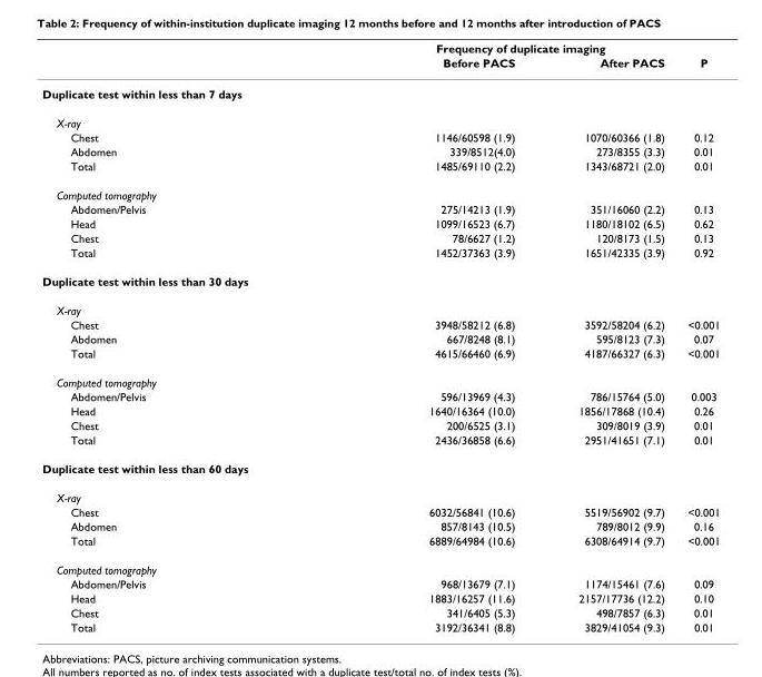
<table><thead><tr><td rowspan="2"></td><td colspan="2">Frequency of duplicate imaging</td><td rowspan="2">P</td></tr><tr><td>Before PACS</td><td>After PACS</td></tr></thead><tbody><tr><td colspan="4">Duplicate test within less than 7 days</td></tr><tr><td colspan="4">X-ray</td></tr><tr><td>Chest</td><td>1146/60598 (1.9)</td><td>1070/60366 (1.8)</td><td>0.12</td></tr><tr><td>Abdomen</td><td>339/8512(4.0)</td><td>273/8355 (3.3)</td><td>0.01</td></tr><tr><td>Total</td><td>1485/69110 (2.2)</td><td>1343/68721 (2.0)</td><td>0.01</td></tr><tr><td colspan="4">Computed tomography</td></tr><tr><td>Abdomen/Pelvis</td><td>275/14213 (1.9)</td><td>351/16060 (2.2)</td><td>0.13</td></tr><tr><td>Head</td><td>1099/16523 (6.7)</td><td>1180/18102 (6.5)</td><td>0.62</td></tr><tr><td>Chest</td><td>78/6627 (1.2)</td><td>120/8173 (1.5)</td><td>0.13</td></tr><tr><td>Total</td><td>1452/37363 (3.9)</td><td>1651/42335 (3.9)</td><td>0.92</td></tr><tr><td colspan="4">Duplicate test within less than 30 days</td></tr><tr><td colspan="4">X-ray</td></tr><tr><td>Chest</td><td>3948/58212 (6.8)</td><td>3592/58204 (6.2)</td><td>&lt;0.001</td></tr><tr><td>Abdomen</td><td>667/8248 (8.1)</td><td>595/8123 (7.3)</td><td>0.07</td></tr><tr><td>Total</td><td>4615/66460 (6.9)</td><td>4187/66327 (6.3)</td><td>&lt;0.001</td></tr><tr><td colspan="4">Computed tomography</td></tr><tr><td>Abdomen/Pelvis</td><td>596/13969 (4.3)</td><td>786/15764 (5.0)</td><td>0.003</td></tr><tr><td>Head</td><td>1640/16364 (10.0)</td><td>1856/17868 (10.4)</td><td>0.26</td></tr><tr><td>Chest</td><td>200/6525 (3.1)</td><td>309/8019 (3.9)</td><td>0.01</td></tr><tr><td>Total</td><td>2436/36858 (6.6)</td><td>2951/41651 (7.1)</td><td>0.01</td></tr><tr><td colspan="4">Duplicate test within less than 60 days</td></tr><tr><td colspan="4">X-ray</td></tr><tr><td>Chest</td><td>6032/56841 (10.6)</td><td>5519/56902 (9.7)</td><td>&lt;0.001</td></tr><tr><td>Abdomen</td><td>857/8143 (10.5)</td><td>789/8012 (9.9)</td><td>0.16</td></tr><tr><td>Total</td><td>6889/64984 (10.6)</td><td>6308/64914 (9.7)</td><td>&lt;0.001</td></tr><tr><td colspan="4">Computed tomography</td></tr><tr><td>Abdomen/Pelvis</td><td>968/13679 (7.1)</td><td>1174/15461 (7.6)</td><td>0.09</td></tr><tr><td>Head</td><td>1883/16257 (11.6)</td><td>2157/17736 (12.2)</td><td>0.10</td></tr><tr><td>Chest</td><td>341/6405 (5.3)</td><td>498/7857 (6.3)</td><td>0.01</td></tr><tr><td>Total</td><td>3192/36341 (8.8)</td><td>3829/41054 (9.3)</td><td>0.01</td></tr></tbody></table>